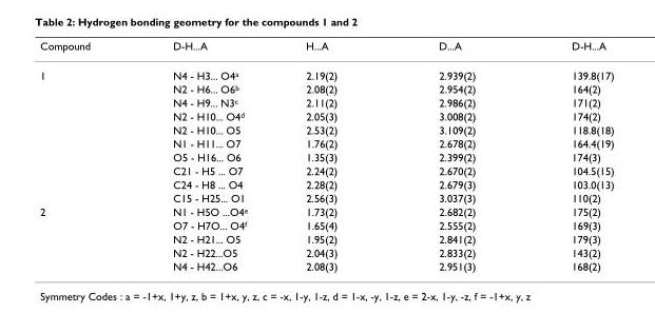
<table><thead><tr><td>Compound</td><td>D-H...A</td><td>H...A</td><td>D...A</td><td>D-H...A</td></tr></thead><tbody><tr><td rowspan="10">1</td><td>N4 - H3... O4<sup>a</sup></td><td>2.19(2)</td><td>2.939(2)</td><td>139.8(17)</td></tr><tr><td>N2 - H6... O6<sup>b</sup></td><td>2.08(2)</td><td>2.954(2)</td><td>164(2)</td></tr><tr><td>N4 - H9... N3<sup>c</sup></td><td>2.11(2)</td><td>2.986(2)</td><td>171(2)</td></tr><tr><td>N2 - H10... O4<sup>d</sup></td><td>2.05(3)</td><td>3.008(2)</td><td>174(2)</td></tr><tr><td>N2 - H10... O5</td><td>2.53(2)</td><td>3.109(2)</td><td>118.8(18)</td></tr><tr><td>N1 - H11... O7</td><td>1.76(2)</td><td>2.678(2)</td><td>164.4(19)</td></tr><tr><td>O5 - H16... O6</td><td>1.35(3)</td><td>2.399(2)</td><td>174(3)</td></tr><tr><td>C21 - H5 ... O7</td><td>2.24(2)</td><td>2.670(2)</td><td>104.5(15)</td></tr><tr><td>C24 - H8 ... O4</td><td>2.28(2)</td><td>2.679(3)</td><td>103.0(13)</td></tr><tr><td>C15 - H25... O1</td><td>2.56(3)</td><td>3.037(3)</td><td>110(2)</td></tr><tr><td rowspan="5">2</td><td>N1 - H5O ...O4<sup>e</sup></td><td>1.73(2)</td><td>2.682(2)</td><td>175(2)</td></tr><tr><td>O7 - H7O... O4<sup>f</sup></td><td>1.65(4)</td><td>2.555(2)</td><td>169(3)</td></tr><tr><td>N2 - H21... O5</td><td>1.95(2)</td><td>2.841(2)</td><td>179(3)</td></tr><tr><td>N2 - H22...O5</td><td>2.04(3)</td><td>2.833(2)</td><td>143(2)</td></tr><tr><td>N4 - H42...O6</td><td>2.08(3)</td><td>2.951(3)</td><td>168(2)</td></tr></tbody></table>